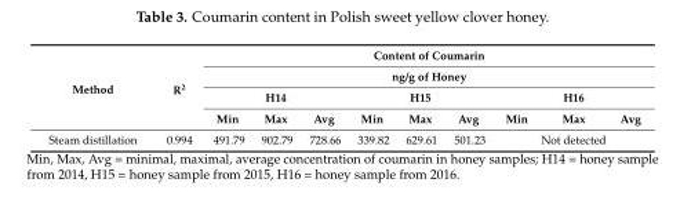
<table><thead><tr><td rowspan="4">Method</td><td rowspan="4">R<sup>2</sup></td><td rowspan="2" colspan="9">Content of Coumarin ng/g of Honey</td></tr><tr></tr><tr><td colspan="3">H14</td><td colspan="3">H15</td><td colspan="3">H16</td></tr><tr><td>Min</td><td>Max</td><td>Avg</td><td>Min</td><td>Max</td><td>Avg</td><td>Min</td><td>Max</td><td>Avg</td></tr></thead><tbody><tr><td>Steam distillation</td><td>0.994</td><td>491.79</td><td>902.79</td><td>728.66</td><td>339.82</td><td>629.61</td><td>501.23</td><td colspan="3">Not detected</td></tr></tbody></table>